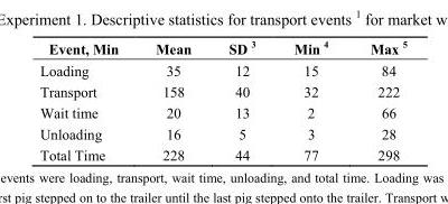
<table><thead><tr><td>Event, Min</td><td>Mean</td><td>SD <sup>3</sup></td><td>Min <sup>4</sup></td><td>Max <sup>5</sup></td></tr></thead><tbody><tr><td>Loading</td><td>35</td><td>12</td><td>15</td><td>84</td></tr><tr><td>Transport</td><td>158</td><td>40</td><td>32</td><td>222</td></tr><tr><td>Wait time</td><td>20</td><td>13</td><td>2</td><td>66</td></tr><tr><td>Unloading</td><td>16</td><td>5</td><td>3</td><td>28</td></tr><tr><td>Total Time</td><td>228</td><td>44</td><td>77</td><td>298</td></tr></tbody></table>